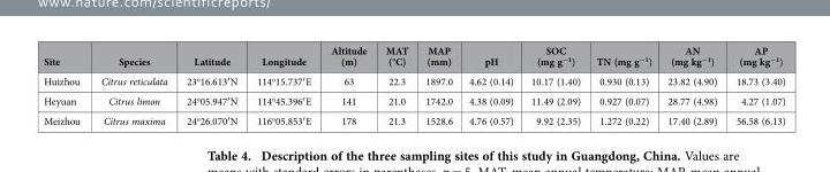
<table><thead><tr><td>Site</td><td>Species</td><td>Latitude</td><td>Longitude</td><td>Altitude (m)</td><td>MAT (°C)</td><td>MAP (mm)</td><td>pH</td><td>SOC (mg g<sup>−1</sup>)</td><td>TN (mg g<sup>−1</sup>)</td><td>AN (mg kg<sup>−1</sup>)</td><td>AP (mg kg<sup>−1</sup>)</td></tr></thead><tbody><tr><td>Huizhou</td><td>Citrus reticulata</td><td>23<sup>o</sup>16.613′ N</td><td>114<sup>o</sup>15.737′ E</td><td>63</td><td>22.3</td><td>1897.0</td><td>4.62 (0.14)</td><td>10.17 (1.40)</td><td>0.930 (0.13)</td><td>23.82 (4.90)</td><td>18.73 (3.40)</td></tr><tr><td>Heyuan</td><td>Citrus limon</td><td>24<sup>o</sup>05.947′ N</td><td>114<sup>o</sup>45.396′ E</td><td>141</td><td>21.0</td><td>1742.0</td><td>4.38 (0.09)</td><td>11.49 (2.09)</td><td>0.927 (0.07)</td><td>28.77 (4.98)</td><td>4.27 (1.07)</td></tr><tr><td>Meizhou</td><td>Citrus maxima</td><td>24<sup>o</sup>26.070′ N</td><td>116<sup>o</sup>05.853′ E</td><td>178</td><td>21.3</td><td>1528.6</td><td>4.76 (0.57)</td><td>9.92 (2.35)</td><td>1.272 (0.22)</td><td>17.40 (2.89)</td><td>56.58 (6.13)</td></tr></tbody></table>